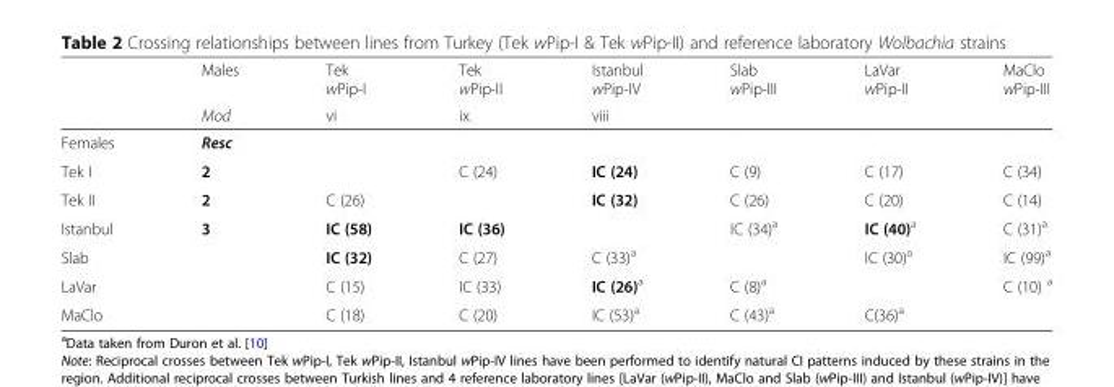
<table><thead><tr><td rowspan="2"></td><td rowspan="2">Males Mod</td><td rowspan="2">Tek wPip-I vi</td><td rowspan="2">Tek wPip-II ix</td><td rowspan="2">Istanbul wPip-IV viii</td><td rowspan="2">Slab wPip-III</td><td rowspan="2">LaVar wPip-II</td><td rowspan="2">MaClo wPip-III</td></tr><tr></tr></thead><tbody><tr><td>Females</td><td>Resc</td><td></td><td></td><td></td><td></td><td></td><td></td></tr><tr><td>Tek I</td><td>2</td><td></td><td>C (24)</td><td>IC (24)</td><td>C (9)</td><td>C (17)</td><td>C (34)</td></tr><tr><td>Tek II</td><td>2</td><td>C (26)</td><td></td><td>IC (32)</td><td>C (26)</td><td>C (20)</td><td>C (14)</td></tr><tr><td>Istanbul</td><td>3</td><td>IC (58)</td><td>IC (36)</td><td></td><td>IC (34)<sup>a</sup></td><td>IC (40)<sup>a</sup></td><td>C (31)<sup>a</sup></td></tr><tr><td>Slab</td><td></td><td>IC (32)</td><td>C (27)</td><td>C (33)<sup>a</sup></td><td></td><td>IC (30)<sup>a</sup></td><td>IC (99)<sup>a</sup></td></tr><tr><td>LaVar</td><td></td><td>C (15)</td><td>IC (33)</td><td>IC (26)<sup>a</sup></td><td>C (8)<sup>a</sup></td><td></td><td>C (10) <sup>a</sup></td></tr><tr><td>MaClo</td><td></td><td>C (18)</td><td>C (20)</td><td>IC (53)<sup>a</sup></td><td>C (43)<sup>a</sup></td><td>C(36)<sup>a</sup></td><td></td></tr></tbody></table>